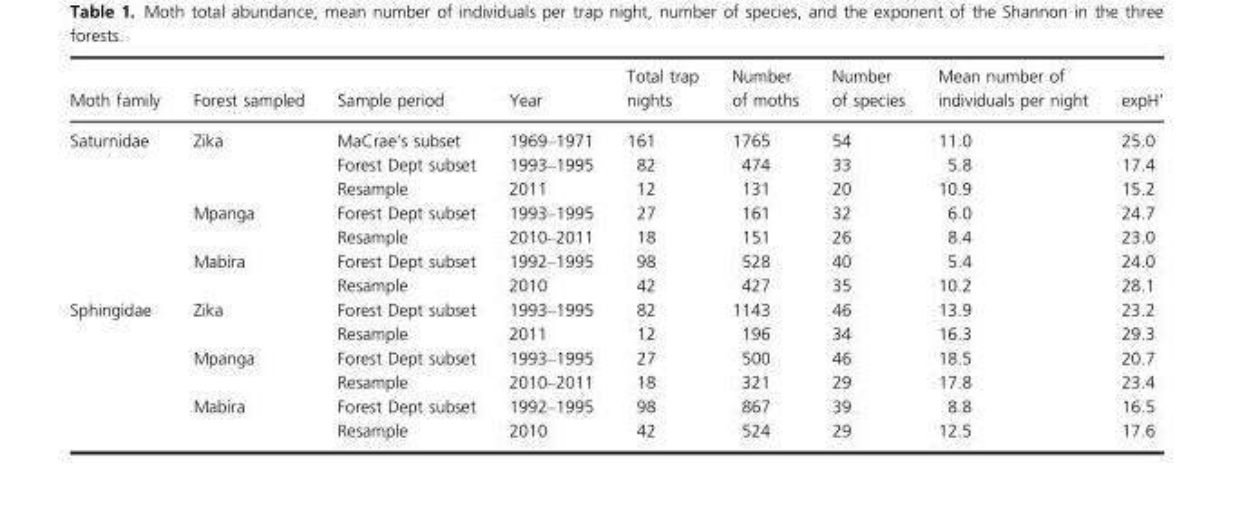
<table><thead><tr><td>Moth family</td><td>Forest sampled</td><td>Sample period</td><td>Year</td><td>Total trap nights</td><td>Number of moths</td><td>Number of species</td><td>Mean number of individuals per night</td><td>expH’</td></tr></thead><tbody><tr><td rowspan="7">Saturnidae</td><td rowspan="3">Zika</td><td>MaCrae’s subset</td><td>1969–1971</td><td>161</td><td>1765</td><td>54</td><td>11.0</td><td>25.0</td></tr><tr><td>Forest Dept subset</td><td>1993–1995</td><td>82</td><td>474</td><td>33</td><td>5.8</td><td>17.4</td></tr><tr><td>Resample</td><td>2011</td><td>12</td><td>131</td><td>20</td><td>10.9</td><td>15.2</td></tr><tr><td rowspan="2">Mpanga</td><td>Forest Dept subset</td><td>1993–1995</td><td>27</td><td>161</td><td>32</td><td>6.0</td><td>24.7</td></tr><tr><td>Resample</td><td>2010–2011</td><td>18</td><td>151</td><td>26</td><td>8.4</td><td>23.0</td></tr><tr><td rowspan="2">Mabira</td><td>Forest Dept subset</td><td>1992–1995</td><td>98</td><td>528</td><td>40</td><td>5.4</td><td>24.0</td></tr><tr><td>Resample</td><td>2010</td><td>42</td><td>427</td><td>35</td><td>10.2</td><td>28.1</td></tr><tr><td rowspan="6">Sphingidae</td><td rowspan="2">Zika</td><td>Forest Dept subset</td><td>1993–1995</td><td>82</td><td>1143</td><td>46</td><td>13.9</td><td>23.2</td></tr><tr><td>Resample</td><td>2011</td><td>12</td><td>196</td><td>34</td><td>16.3</td><td>29.3</td></tr><tr><td rowspan="2">Mpanga</td><td>Forest Dept subset</td><td>1993–1995</td><td>27</td><td>500</td><td>46</td><td>18.5</td><td>20.7</td></tr><tr><td>Resample</td><td>2010–2011</td><td>18</td><td>321</td><td>29</td><td>17.8</td><td>23.4</td></tr><tr><td rowspan="2">Mabira</td><td>Forest Dept subset</td><td>1992–1995</td><td>98</td><td>867</td><td>39</td><td>8.8</td><td>16.5</td></tr><tr><td>Resample</td><td>2010</td><td>42</td><td>524</td><td>29</td><td>12.5</td><td>17.6</td></tr></tbody></table>